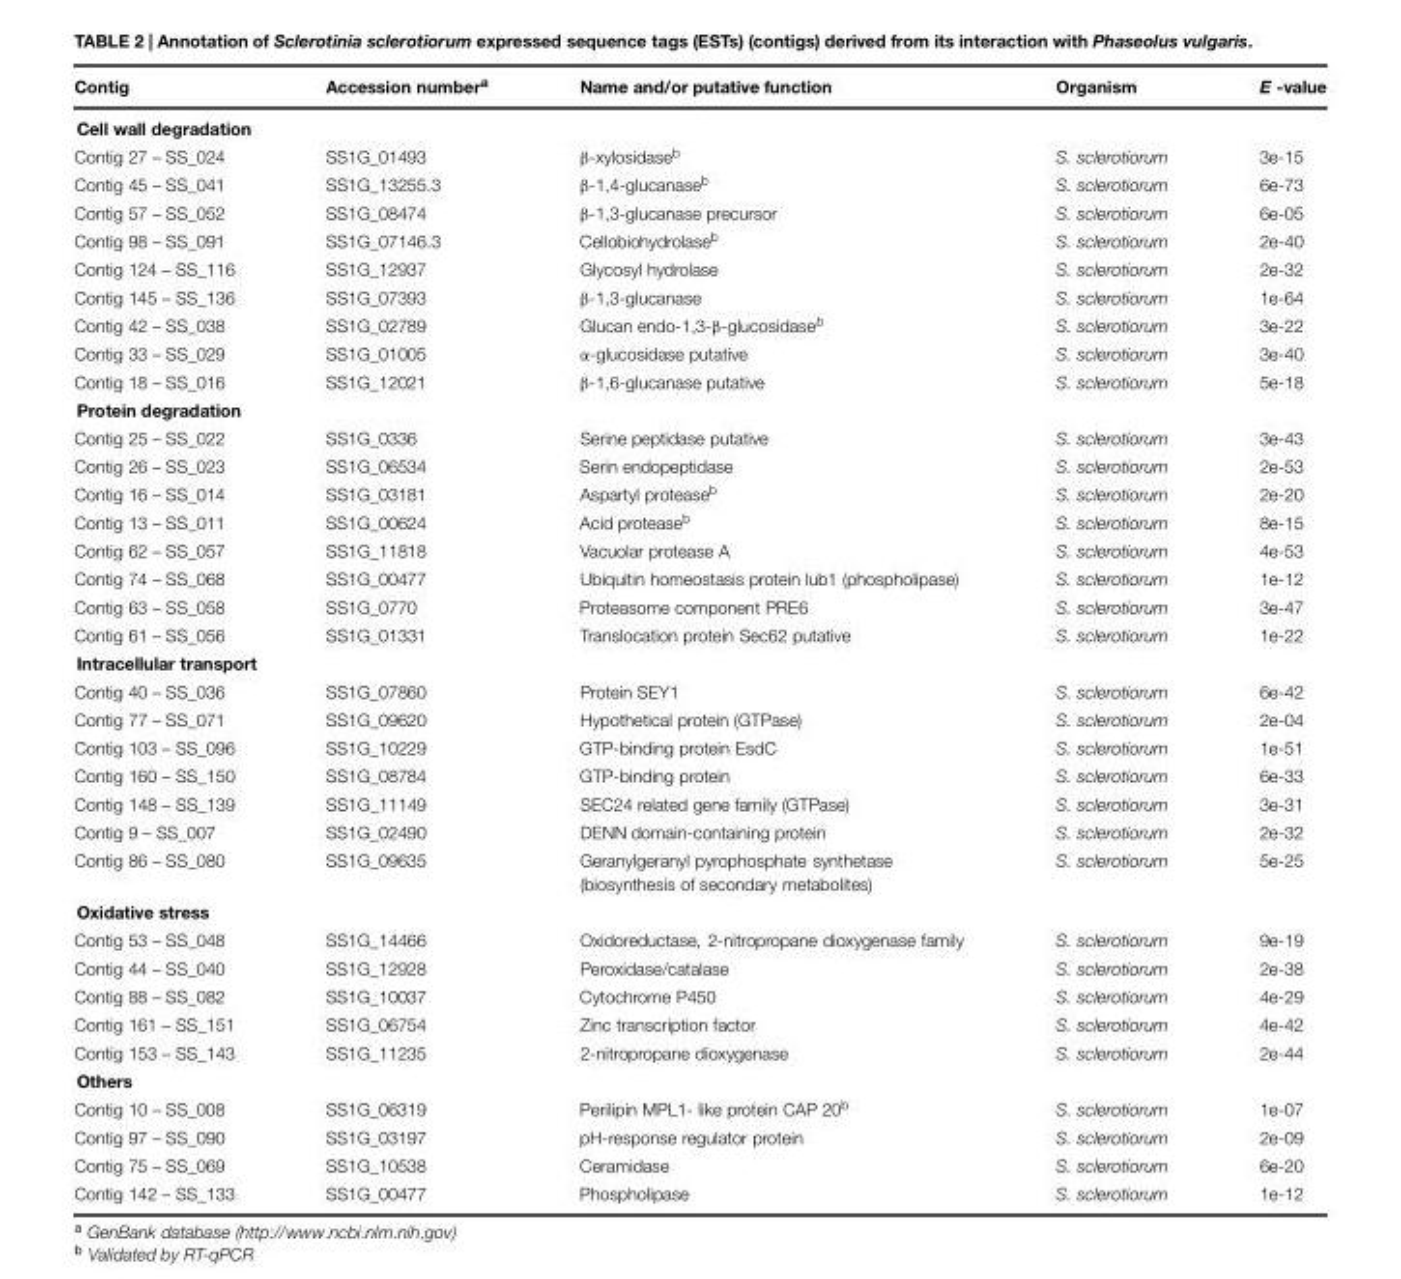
<table><thead><tr><td>Contig</td><td>Accession number<sup>a</sup></td><td>Name and/or putative function</td><td>Organism</td><td>E -value</td></tr></thead><tbody><tr><td colspan="5">Cell wall degradation</td></tr><tr><td>Contig 27 – SS_024</td><td>SS1G_01493</td><td>β-xylosidase<sup>b</sup></td><td>S. sclerotiorum</td><td>3e-15</td></tr><tr><td>Contig 45 – SS_041</td><td>SS1G_13255.3</td><td>β-1,4-glucanase<sup>b</sup></td><td>S. sclerotiorum</td><td>6e-73</td></tr><tr><td>Contig 57 – SS_052</td><td>SS1G_08474</td><td>β-1,3-glucanase precursor</td><td>S. sclerotiorum</td><td>6e-05</td></tr><tr><td>Contig 98 – SS_091</td><td>SS1G_07146.3</td><td>Cellobiohydrolase<sup>b</sup></td><td>S. sclerotiorum</td><td>2e-40</td></tr><tr><td>Contig 124 – SS_116</td><td>SS1G_12937</td><td>Glycosyl hydrolase</td><td>S. sclerotiorum</td><td>2e-32</td></tr><tr><td>Contig 145 – SS_136</td><td>SS1G_07393</td><td>β-1,3-glucanase</td><td>S. sclerotiorum</td><td>1e-64</td></tr><tr><td>Contig 42 – SS_038</td><td>SS1G_02789</td><td>Glucan endo-1,3-β-glucosidase<sup>b</sup></td><td>S. sclerotiorum</td><td>3e-22</td></tr><tr><td>Contig 33 – SS_029</td><td>SS1G_01005</td><td>α-glucosidase putative</td><td>S. sclerotiorum</td><td>3e-40</td></tr><tr><td>Contig 18 – SS_016</td><td>SS1G_12021</td><td>β-1,6-glucanase putative</td><td>S. sclerotiorum</td><td>5e-18</td></tr><tr><td colspan="5">Protein degradation</td></tr><tr><td>Contig 25 – SS_022</td><td>SS1G_0336</td><td>Serine peptidase putative</td><td>S. sclerotiorum</td><td>3e-43</td></tr><tr><td>Contig 26 – SS_023</td><td>SS1G_06534</td><td>Serin endopeptidase</td><td>S. sclerotiorum</td><td>2e-53</td></tr><tr><td>Contig 16 – SS_014</td><td>SS1G_03181</td><td>Aspartyl protease<sup>b</sup></td><td>S. sclerotiorum</td><td>2e-20</td></tr><tr><td>Contig 13 – SS_011</td><td>SS1G_00624</td><td>Acid protease<sup>b</sup></td><td>S. sclerotiorum</td><td>8e-15</td></tr><tr><td>Contig 62 – SS_057</td><td>SS1G_11818</td><td>Vacuolar protease A</td><td>S. sclerotiorum</td><td>4e-53</td></tr><tr><td>Contig 74 – SS_068</td><td>SS1G_00477</td><td>Ubiquitin homeostasis protein lub1 (phospholipase)</td><td>S. sclerotiorum</td><td>1e-12</td></tr><tr><td>Contig 63 – SS_058</td><td>SS1G_0770</td><td>Proteasome component PRE6</td><td>S. sclerotiorum</td><td>3e-47</td></tr><tr><td>Contig 61 – SS_056</td><td>SS1G_01331</td><td>Translocation protein Sec62 putative</td><td>S. sclerotiorum</td><td>1e-22</td></tr><tr><td colspan="5">Intracellular transport</td></tr><tr><td>Contig 40 – SS_036</td><td>SS1G_07860</td><td>Protein SEY1</td><td>S. sclerotiorum</td><td>6e-42</td></tr><tr><td>Contig 77 – SS_071</td><td>SS1G_09620</td><td>Hypothetical protein (GTPase)</td><td>S. sclerotiorum</td><td>2e-04</td></tr><tr><td>Contig 103 – SS_096</td><td>SS1G_10229</td><td>GTP-binding protein EsdC</td><td>S. sclerotiorum</td><td>1e-51</td></tr><tr><td>Contig 160 – SS_150</td><td>SS1G_08784</td><td>GTP-binding protein</td><td>S. sclerotiorum</td><td>6e-33</td></tr><tr><td>Contig 148 – SS_139</td><td>SS1G_11149</td><td>SEC24 related gene family (GTPase)</td><td>S. sclerotiorum</td><td>3e-31</td></tr><tr><td>Contig 9 – SS_007</td><td>SS1G_02490</td><td>DENN domain-containing protein</td><td>S. sclerotiorum</td><td>2e-32</td></tr><tr><td>Contig 86 – SS_080</td><td>SS1G_09635</td><td>Geranylgeranyl pyrophosphate synthetase (biosynthesis of secondary metabolites)</td><td>S. sclerotiorum</td><td>5e-25</td></tr><tr><td colspan="5">Oxidative stress</td></tr><tr><td>Contig 53 – SS_048</td><td>SS1G_14466</td><td>Oxidoreductase, 2-nitropropane dioxygenase family</td><td>S. sclerotiorum</td><td>9e-19</td></tr><tr><td>Contig 44 – SS_040</td><td>SS1G_12928</td><td>Peroxidase/catalase</td><td>S. sclerotiorum</td><td>2e-38</td></tr><tr><td>Contig 88 – SS_082</td><td>SS1G_10037</td><td>Cytochrome P450</td><td>S. sclerotiorum</td><td>4e-29</td></tr><tr><td>Contig 161 – SS_151</td><td>SS1G_06754</td><td>Zinc transcription factor</td><td>S. sclerotiorum</td><td>4e-42</td></tr><tr><td>Contig 153 – SS_143</td><td>SS1G_11235</td><td>2-nitropropane dioxygenase</td><td>S. sclerotiorum</td><td>2e-44</td></tr><tr><td colspan="5">Others</td></tr><tr><td>Contig 10 – SS_008</td><td>SS1G_06319</td><td>Perilipin MPL1- like protein CAP 20<sup>b</sup></td><td>S. sclerotiorum</td><td>1e-07</td></tr><tr><td>Contig 97 – SS_090</td><td>SS1G_03197</td><td>pH-response regulator protein</td><td>S. sclerotiorum</td><td>2e-09</td></tr><tr><td>Contig 75 – SS_069</td><td>SS1G_10538</td><td>Ceramidase</td><td>S. sclerotiorum</td><td>6e-20</td></tr><tr><td>Contig 142 – SS_133</td><td>SS1G_00477</td><td>Phospholipase</td><td>S. sclerotiorum</td><td>1e-12</td></tr></tbody></table>